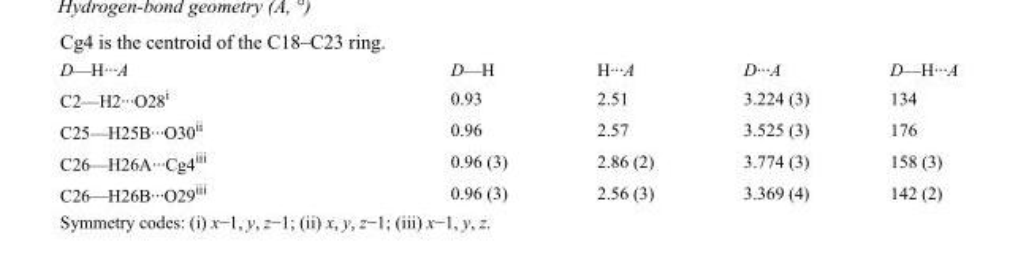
<table><tbody><tr><td>D—H···A</td><td>D—H</td><td>H···A</td><td>D···A</td><td>D—H···A</td></tr><tr><td>C2—H2···O28<sup>i</sup></td><td>0.93</td><td>2.51</td><td>3.224 (3)</td><td>134</td></tr><tr><td>C25—H25B···O30<sup>ii</sup></td><td>0.96</td><td>2.57</td><td>3.525 (3)</td><td>176</td></tr><tr><td>C26—H26A···Cg4<sup>iii</sup></td><td>0.96 (3)</td><td>2.86 (2)</td><td>3.774 (3)</td><td>158 (3)</td></tr><tr><td>C26—H26B···O29<sup>iii</sup></td><td>0.96 (3)</td><td>2.56 (3)</td><td>3.369 (4)</td><td>142 (2)</td></tr></tbody></table>